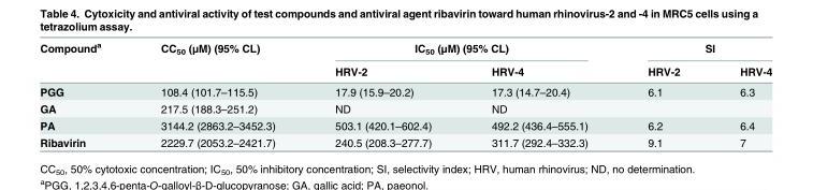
<table><thead><tr><td rowspan="2">Compound<sup>a</sup></td><td rowspan="2">CC<sub>50</sub> (μM) (95% CL)</td><td colspan="2">IC<sub>50</sub> (μM) (95% CL)</td><td colspan="2">SI</td></tr><tr><td>HRV-2</td><td>HRV-4</td><td>HRV-2</td><td>HRV-4</td></tr></thead><tbody><tr><td>PGG</td><td>108.4 (101.7–115.5)</td><td>17.9 (15.9–20.2)</td><td>17.3 (14.7–20.4)</td><td>6.1</td><td>6.3</td></tr><tr><td>GA</td><td>217.5 (188.3–251.2)</td><td>ND</td><td>ND</td><td></td><td></td></tr><tr><td>PA</td><td>3144.2 (2863.2–3452.3)</td><td>503.1 (420.1–602.4)</td><td>492.2 (436.4–555.1)</td><td>6.2</td><td>6.4</td></tr><tr><td>Ribavirin</td><td>2229.7 (2053.2–2421.7)</td><td>240.5 (208.3–277.7)</td><td>311.7 (292.4–332.3)</td><td>9.1</td><td>7</td></tr></tbody></table>